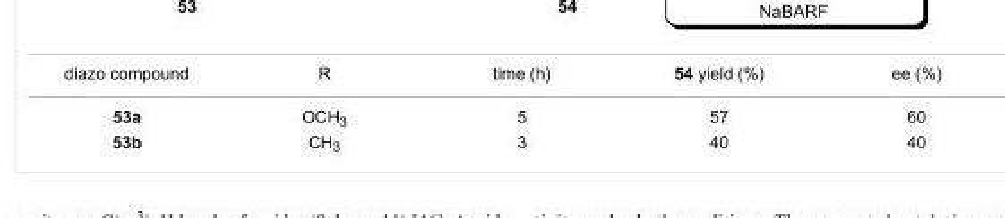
<table><tbody><tr><td>diazo compound</td><td>R</td><td>time (h)</td><td>54 yield (%)</td><td>ee (%)</td></tr><tr><td>53a</td><td>OCH<sub>3</sub></td><td>5</td><td>57</td><td>60</td></tr><tr><td>53b</td><td>CH<sub>3</sub></td><td>3</td><td>40</td><td>40</td></tr></tbody></table>